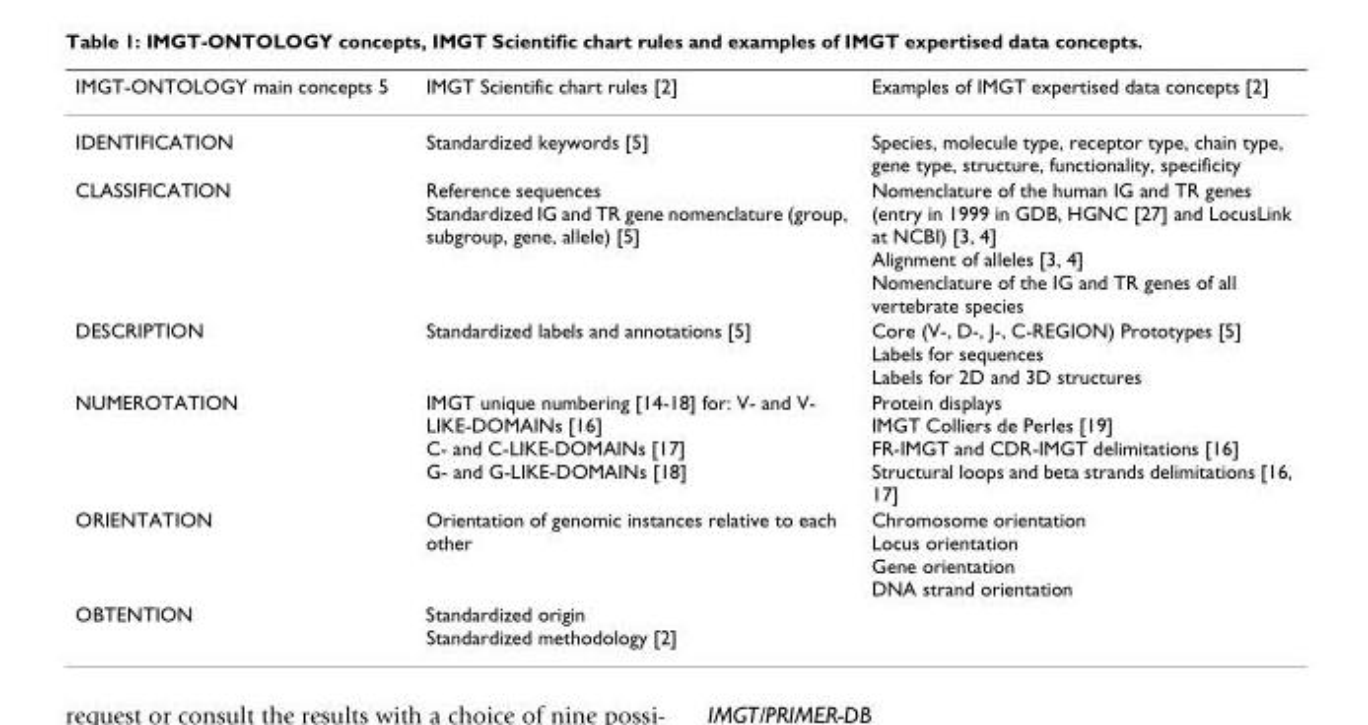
<table><thead><tr><td>IMGT-ONTOLOGY main concepts 5</td><td>IMGT Scientific chart rules [2]</td><td>Examples of IMGT expertised data concepts [2]</td></tr></thead><tbody><tr><td>IDENTIFICATION</td><td>Standardized keywords [5]</td><td>Species, molecule type, receptor type, chain type, gene type, structure, functionality, specificity</td></tr><tr><td>CLASSIFICATION</td><td>Reference sequences Standardized IG and TR gene nomenclature (group, subgroup, gene, allele) [5]</td><td>Nomenclature of the human IG and TR genes (entry in 1999 in GDB, HGNC [27] and LocusLink at NCBI) [3, 4] Alignment of alleles [3, 4] Nomenclature of the IG and TR genes of all vertebrate species</td></tr><tr><td>DESCRIPTION</td><td>Standardized labels and annotations [5]</td><td>Core (V-, D-, J-, C-REGION) Prototypes [5] Labels for sequences Labels for 2D and 3D structures</td></tr><tr><td>NUMEROTATION</td><td>IMGT unique numbering [14-18] for: V- and V- LIKE-DOMAINs [16] C- and C-LIKE-DOMAINs [17] G- and G-LIKE-DOMAINs [18]</td><td>Protein displays IMGT Colliers de Perles [19] FR-IMGT and CDR-IMGT delimitations [16] Structural loops and beta strands delimitations [16, 17]</td></tr><tr><td>ORIENTATION</td><td>Orientation of genomic instances relative to each other</td><td>Chromosome orientation Locus orientation Gene orientation DNA strand orientation</td></tr><tr><td>OBTENTION</td><td>Standardized origin Standardized methodology [2]</td><td></td></tr></tbody></table>